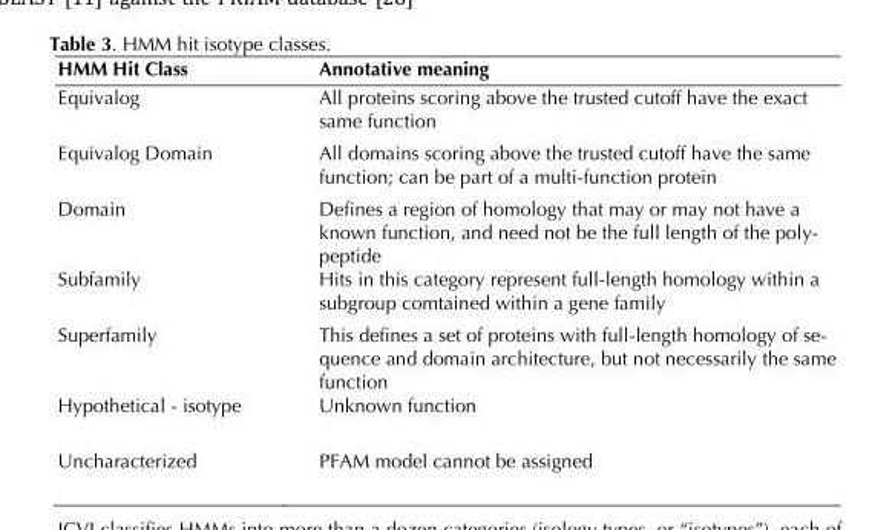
<table><thead><tr><td>HMM Hit Class</td><td>Annotative meaning</td></tr></thead><tbody><tr><td>Equivalog</td><td>All proteins scoring above the trusted cutoff have the exact same function</td></tr><tr><td>Equivalog Domain</td><td>All domains scoring above the trusted cutoff have the same function; can be part of a multi-function protein</td></tr><tr><td>Domain</td><td>Defines a region of homology that may or may not have a known function, and need not be the full length of the poly- peptide</td></tr><tr><td>Subfamily</td><td>Hits in this category represent full-length homology within a subgroup comtained within a gene family</td></tr><tr><td>Superfamily</td><td>This defines a set of proteins with full-length homology of se- quence and domain architecture, but not necessarily the same function</td></tr><tr><td>Hypothetical - isotype</td><td>Unknown function</td></tr><tr><td>Uncharacterized</td><td>PFAM model cannot be assigned</td></tr></tbody></table>